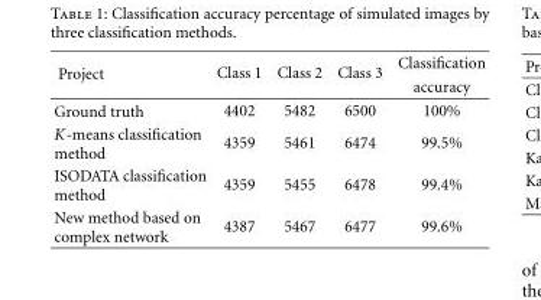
<table><thead><tr><td rowspan="2">Project</td><td rowspan="2">Class 1</td><td rowspan="2">Class 2</td><td rowspan="2">Class 3</td><td rowspan="2">Classification accuracy</td></tr><tr></tr></thead><tbody><tr><td>Ground truth</td><td>4402</td><td>5482</td><td>6500</td><td>100%</td></tr><tr><td>K-means classification method</td><td>4359</td><td>5461</td><td>6474</td><td>99.5%</td></tr><tr><td>ISODATA classification method</td><td>4359</td><td>5455</td><td>6478</td><td>99.4%</td></tr><tr><td>New method based on complex network</td><td>4387</td><td>5467</td><td>6477</td><td>99.6%</td></tr></tbody></table>